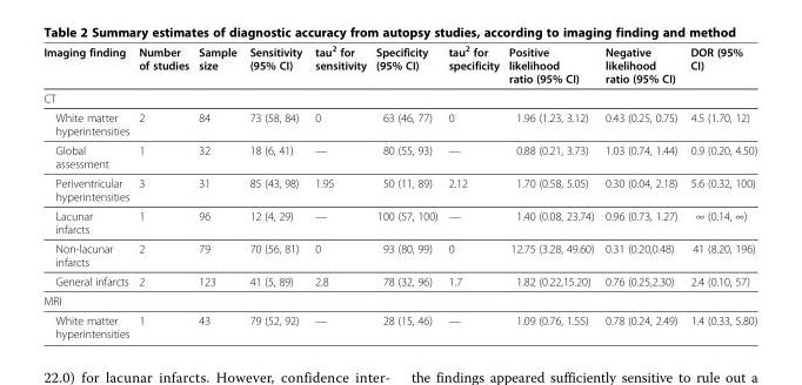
<table><thead><tr><td>Imaging finding</td><td>Number of studies</td><td>Sample size</td><td>Sensitivity (95% CI)</td><td>tau<sup>2</sup> for sensitivity</td><td>Specificity (95% CI)</td><td>tau<sup>2</sup> for specificity</td><td>Positive likelihood ratio (95% CI)</td><td>Negative likelihood ratio (95% CI)</td><td>DOR (95% CI)</td></tr></thead><tbody><tr><td colspan="10">CT</td></tr><tr><td>White matter hyperintensities</td><td>2</td><td>84</td><td>73 (58, 84)</td><td>0</td><td>63 (46, 77)</td><td>0</td><td>1.96 (1.23, 3.12)</td><td>0.43 (0.25, 0.75)</td><td>4.5 (1.70, 12)</td></tr><tr><td>Global assessment</td><td>1</td><td>32</td><td>18 (6, 41)</td><td>—</td><td>80 (55, 93)</td><td>—</td><td>0.88 (0.21, 3.73)</td><td>1.03 (0.74, 1.44)</td><td>0.9 (0.20, 4.50)</td></tr><tr><td>Periventricular hyperintensities</td><td>3</td><td>31</td><td>85 (43, 98)</td><td>1.95</td><td>50 (11, 89)</td><td>2.12</td><td>1.70 (0.58, 5.05)</td><td>0.30 (0.04, 2.18)</td><td>5.6 (0.32, 100)</td></tr><tr><td>Lacunar infarcts</td><td>1</td><td>96</td><td>12 (4, 29)</td><td>—</td><td>100 (57, 100)</td><td>—</td><td>1.40 (0.08, 23.74)</td><td>0.96 (0.73, 1.27)</td><td>∞ (0.14, ∞)</td></tr><tr><td>Non-lacunar infarcts</td><td>2</td><td>79</td><td>70 (56, 81)</td><td>0</td><td>93 (80, 99)</td><td>0</td><td>12.75 (3.28, 49.60)</td><td>0.31 (0.20,0.48)</td><td>41 (8.20, 196)</td></tr><tr><td>General infarcts</td><td>2</td><td>123</td><td>41 (5, 89)</td><td>2.8</td><td>78 (32, 96)</td><td>1.7</td><td>1.82 (0.22,15.20)</td><td>0.76 (0.25,2.30)</td><td>2.4 (0.10, 57)</td></tr><tr><td colspan="10">MRI</td></tr><tr><td>White matter hyperintensities</td><td>1</td><td>43</td><td>79 (52, 92)</td><td>—</td><td>28 (15, 46)</td><td>—</td><td>1.09 (0.76, 1.55)</td><td>0.78 (0.24, 2.49)</td><td>1.4 (0.33, 5.80)</td></tr></tbody></table>